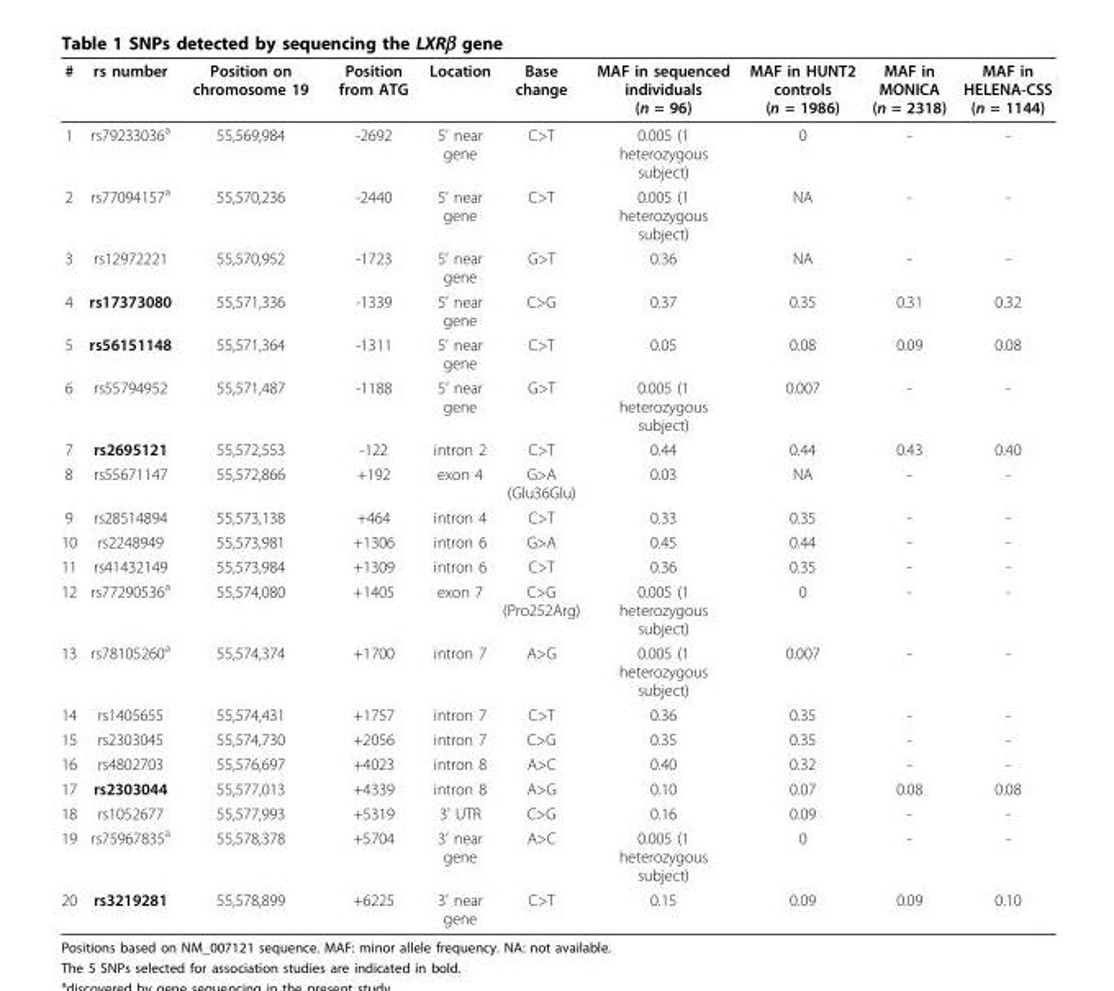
<table><thead><tr><td>#</td><td>rs number</td><td>Position on chromosome 19</td><td>Position from ATG</td><td>Location</td><td>Base change</td><td>MAF in sequenced individuals (n = 96)</td><td>MAF in HUNT2 controls (n = 1986)</td><td>MAF in MONICA (n = 2318)</td><td>MAF in HELENA-CSS (n = 1144)</td></tr></thead><tbody><tr><td>1</td><td>rs79233036<sup>a</sup></td><td>55,569,984</td><td>-2692</td><td>5’ near gene</td><td>C&gt;T</td><td>0.005 (1 heterozygous subject)</td><td>0</td><td>-</td><td>-</td></tr><tr><td>2</td><td>rs77094157<sup>a</sup></td><td>55,570,236</td><td>-2440</td><td>5’ near gene</td><td>C&gt;T</td><td>0.005 (1 heterozygous subject)</td><td>NA</td><td>-</td><td>-</td></tr><tr><td>3</td><td>rs12972221</td><td>55,570,952</td><td>-1723</td><td>5’ near gene</td><td>G&gt;T</td><td>0.36</td><td>NA</td><td>-</td><td>-</td></tr><tr><td>4</td><td>rs17373080</td><td>55,571,336</td><td>-1339</td><td>5’ near gene</td><td>C&gt;G</td><td>0.37</td><td>0.35</td><td>0.31</td><td>0.32</td></tr><tr><td>5</td><td>rs56151148</td><td>55,571,364</td><td>-1311</td><td>5’ near gene</td><td>C&gt;T</td><td>0.05</td><td>0.08</td><td>0.09</td><td>0.08</td></tr><tr><td>6</td><td>rs55794952</td><td>55,571,487</td><td>-1188</td><td>5’ near gene</td><td>G&gt;T</td><td>0.005 (1 heterozygous subject)</td><td>0.007</td><td>-</td><td>-</td></tr><tr><td>7</td><td>rs2695121</td><td>55,572,553</td><td>-122</td><td>intron 2</td><td>C&gt;T</td><td>0.44</td><td>0.44</td><td>0.43</td><td>0.40</td></tr><tr><td>8</td><td>rs55671147</td><td>55,572,866</td><td>+192</td><td>exon 4</td><td>G&gt;A (Glu36Glu)</td><td>0.03</td><td>NA</td><td>-</td><td>-</td></tr><tr><td>9</td><td>rs28514894</td><td>55,573,138</td><td>+464</td><td>intron 4</td><td>C&gt;T</td><td>0.33</td><td>0.35</td><td>-</td><td>-</td></tr><tr><td>10</td><td>rs2248949</td><td>55,573,981</td><td>+1306</td><td>intron 6</td><td>G&gt;A</td><td>0.45</td><td>0.44</td><td>-</td><td>-</td></tr><tr><td>11</td><td>rs41432149</td><td>55,573,984</td><td>+1309</td><td>intron 6</td><td>C&gt;T</td><td>0.36</td><td>0.35</td><td>-</td><td>-</td></tr><tr><td>12</td><td>rs77290536<sup>a</sup></td><td>55,574,080</td><td>+1405</td><td>exon 7</td><td>C&gt;G (Pro252Arg)</td><td>0.005 (1 heterozygous subject)</td><td>0</td><td>-</td><td>-</td></tr><tr><td>13</td><td>rs78105260<sup>a</sup></td><td>55,574,374</td><td>+1700</td><td>intron 7</td><td>A&gt;G</td><td>0.005 (1 heterozygous subject)</td><td>0.007</td><td>-</td><td>-</td></tr><tr><td>14</td><td>rs1405655</td><td>55,574,431</td><td>+1757</td><td>intron 7</td><td>C&gt;T</td><td>0.36</td><td>0.35</td><td>-</td><td>-</td></tr><tr><td>15</td><td>rs2303045</td><td>55,574,730</td><td>+2056</td><td>intron 7</td><td>C&gt;G</td><td>0.35</td><td>0.35</td><td>-</td><td>-</td></tr><tr><td>16</td><td>rs4802703</td><td>55,576,697</td><td>+4023</td><td>intron 8</td><td>A&gt;C</td><td>0.40</td><td>0.32</td><td>-</td><td>-</td></tr><tr><td>17</td><td>rs2303044</td><td>55,577,013</td><td>+4339</td><td>intron 8</td><td>A&gt;G</td><td>0.10</td><td>0.07</td><td>0.08</td><td>0.08</td></tr><tr><td>18</td><td>rs1052677</td><td>55,577,993</td><td>+5319</td><td>3’ UTR</td><td>C&gt;G</td><td>0.16</td><td>0.09</td><td>-</td><td>-</td></tr><tr><td>19</td><td>rs75967835<sup>a</sup></td><td>55,578,378</td><td>+5704</td><td>3’ near gene</td><td>A&gt;C</td><td>0.005 (1 heterozygous subject)</td><td>0</td><td>-</td><td>-</td></tr><tr><td>20</td><td>rs3219281</td><td>55,578,899</td><td>+6225</td><td>3’ near gene</td><td>C&gt;T</td><td>0.15</td><td>0.09</td><td>0.09</td><td>0.10</td></tr></tbody></table>